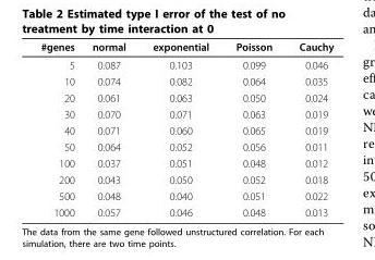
<table><thead><tr><td>#genes</td><td>normal</td><td>exponential</td><td>Poisson</td><td>Cauchy</td></tr></thead><tbody><tr><td>5</td><td>0.087</td><td>0.103</td><td>0.099</td><td>0.046</td></tr><tr><td>10</td><td>0.074</td><td>0.082</td><td>0.064</td><td>0.035</td></tr><tr><td>20</td><td>0.061</td><td>0.063</td><td>0.050</td><td>0.024</td></tr><tr><td>30</td><td>0.070</td><td>0.071</td><td>0.063</td><td>0.019</td></tr><tr><td>40</td><td>0.071</td><td>0.060</td><td>0.065</td><td>0.019</td></tr><tr><td>50</td><td>0.064</td><td>0.052</td><td>0.056</td><td>0.011</td></tr><tr><td>100</td><td>0.037</td><td>0.051</td><td>0.048</td><td>0.012</td></tr><tr><td>200</td><td>0.043</td><td>0.050</td><td>0.052</td><td>0.018</td></tr><tr><td>500</td><td>0.048</td><td>0.040</td><td>0.051</td><td>0.022</td></tr><tr><td>1000</td><td>0.057</td><td>0.046</td><td>0.048</td><td>0.013</td></tr></tbody></table>